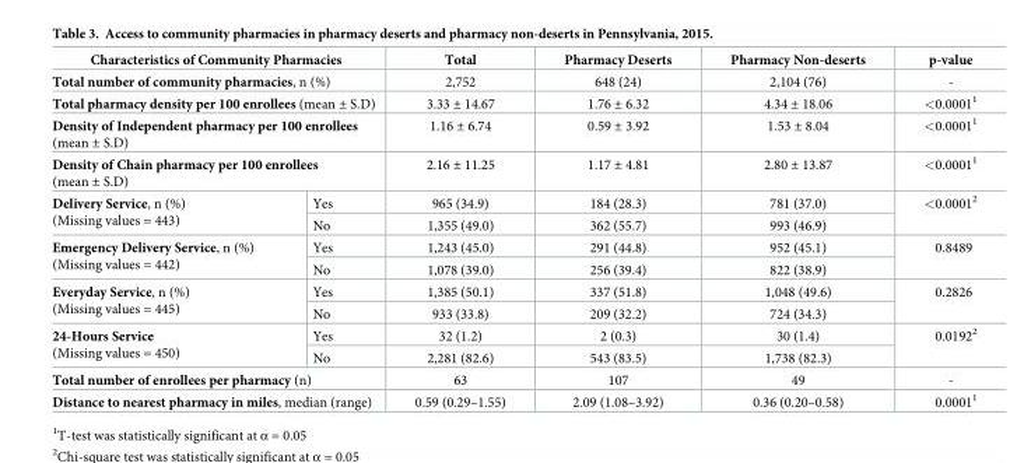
<table><thead><tr><td colspan="2">Characteristics of Community Pharmacies</td><td>Total</td><td>Pharmacy Deserts</td><td>Pharmacy Non-deserts</td><td>p-value</td></tr></thead><tbody><tr><td colspan="2">Total number of community pharmacies, n (%)</td><td>2,752</td><td>648 (24)</td><td>2,104 (76)</td><td>-</td></tr><tr><td colspan="2">Total pharmacy density per 100 enrollees (mean ± S.D)</td><td>3.33 ± 14.67</td><td>1.76 ± 6.32</td><td>4.34 ± 18.06</td><td>&lt;0.0001<sup>1</sup></td></tr><tr><td colspan="2">Density of Independent pharmacy per 100 enrollees (mean ± S.D)</td><td>1.16 ± 6.74</td><td>0.59 ± 3.92</td><td>1.53 ± 8.04</td><td>&lt;0.0001<sup>1</sup></td></tr><tr><td colspan="2">Density of Chain pharmacy per 100 enrollees (mean ± S.D)</td><td>2.16 ± 11.25</td><td>1.17 ± 4.81</td><td>2.80 ± 13.87</td><td>&lt;0.0001<sup>1</sup></td></tr><tr><td rowspan="2">Delivery Service, n (%) (Missing values = 443)</td><td>Yes</td><td>965 (34.9)</td><td>184 (28.3)</td><td>781 (37.0)</td><td rowspan="2">&lt;0.0001<sup>2</sup></td></tr><tr><td>No</td><td>1,355 (49.0)</td><td>362 (55.7)</td><td>993 (46.9)</td></tr><tr><td rowspan="2">Emergency Delivery Service, n (%) (Missing values = 442)</td><td>Yes</td><td>1,243 (45.0)</td><td>291 (44.8)</td><td>952 (45.1)</td><td rowspan="2">0.8489</td></tr><tr><td>No</td><td>1,078 (39.0)</td><td>256 (39.4)</td><td>822 (38.9)</td></tr><tr><td rowspan="2">Everyday Service, n (%) (Missing values = 445)</td><td>Yes</td><td>1,385 (50.1)</td><td>337 (51.8)</td><td>1,048 (49.6)</td><td rowspan="2">0.2826</td></tr><tr><td>No</td><td>933 (33.8)</td><td>209 (32.2)</td><td>724 (34.3)</td></tr><tr><td rowspan="2">24-Hours Service (Missing values = 450)</td><td>Yes</td><td>32 (1.2)</td><td>2 (0.3)</td><td>30 (1.4)</td><td rowspan="2">0.0192<sup>2</sup></td></tr><tr><td>No</td><td>2,281 (82.6)</td><td>543 (83.5)</td><td>1,738 (82.3)</td></tr><tr><td colspan="2">Total number of enrollees per pharmacy (n)</td><td>63</td><td>107</td><td>49</td><td>-</td></tr><tr><td colspan="2">Distance to nearest pharmacy in miles, median (range)</td><td>0.59 (0.29–1.55)</td><td>2.09 (1.08–3.92)</td><td>0.36 (0.20–0.58)</td><td>0.0001<sup>1</sup></td></tr></tbody></table>